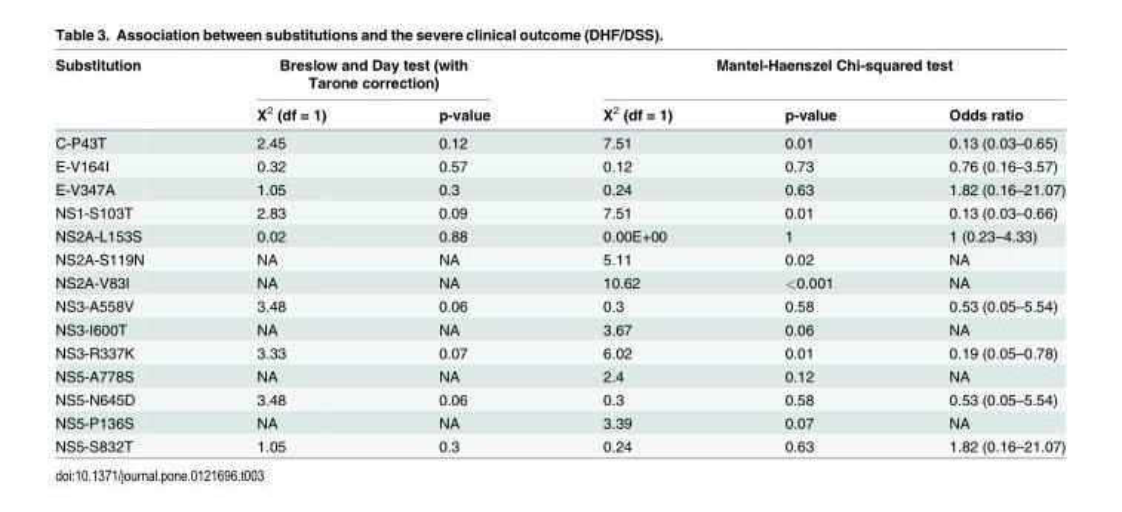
<table><thead><tr><td rowspan="2">Substitution</td><td colspan="2">Breslow and Day test (with Tarone correction)</td><td colspan="3">Mantel-Haenszel Chi-squared test</td></tr><tr><td>X<sup>2</sup> (df = 1)</td><td>p-value</td><td>X<sup>2</sup> (df = 1)</td><td>p-value</td><td>Odds ratio</td></tr></thead><tbody><tr><td>C-P43T</td><td>2.45</td><td>0.12</td><td>7.51</td><td>0.01</td><td>0.13 (0.03–0.65)</td></tr><tr><td>E-V164I</td><td>0.32</td><td>0.57</td><td>0.12</td><td>0.73</td><td>0.76 (0.16–3.57)</td></tr><tr><td>E-V347A</td><td>1.05</td><td>0.3</td><td>0.24</td><td>0.63</td><td>1.82 (0.16–21.07)</td></tr><tr><td>NS1-S103T</td><td>2.83</td><td>0.09</td><td>7.51</td><td>0.01</td><td>0.13 (0.03–0.66)</td></tr><tr><td>NS2A-L153S</td><td>0.02</td><td>0.88</td><td>0.00E+00</td><td>1</td><td>1 (0.23–4.33)</td></tr><tr><td>NS2A-S119N</td><td>NA</td><td>NA</td><td>5.11</td><td>0.02</td><td>NA</td></tr><tr><td>NS2A-V83I</td><td>NA</td><td>NA</td><td>10.62</td><td>&lt;0.001</td><td>NA</td></tr><tr><td>NS3-A558V</td><td>3.48</td><td>0.06</td><td>0.3</td><td>0.58</td><td>0.53 (0.05–5.54)</td></tr><tr><td>NS3-I600T</td><td>NA</td><td>NA</td><td>3.67</td><td>0.06</td><td>NA</td></tr><tr><td>NS3-R337K</td><td>3.33</td><td>0.07</td><td>6.02</td><td>0.01</td><td>0.19 (0.05–0.78)</td></tr><tr><td>NS5-A778S</td><td>NA</td><td>NA</td><td>2.4</td><td>0.12</td><td>NA</td></tr><tr><td>NS5-N645D</td><td>3.48</td><td>0.06</td><td>0.3</td><td>0.58</td><td>0.53 (0.05–5.54)</td></tr><tr><td>NS5-P136S</td><td>NA</td><td>NA</td><td>3.39</td><td>0.07</td><td>NA</td></tr><tr><td>NS5-S832T</td><td>1.05</td><td>0.3</td><td>0.24</td><td>0.63</td><td>1.82 (0.16–21.07)</td></tr></tbody></table>